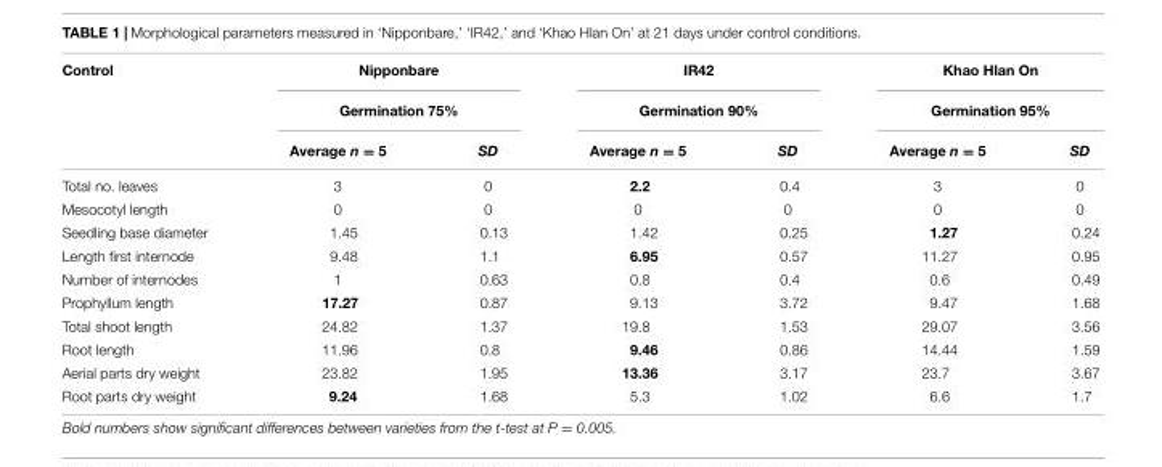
<table><thead><tr><td rowspan="3">Control</td><td rowspan="2" colspan="2">Nipponbare Germination 75%</td><td rowspan="2" colspan="2">IR42 Germination 90%</td><td rowspan="2" colspan="2">Khao Hlan On Germination 95%</td></tr><tr></tr><tr><td>Average n = 5</td><td>SD</td><td>Average n = 5</td><td>SD</td><td>Average n = 5</td><td>SD</td></tr></thead><tbody><tr><td>Total no. leaves</td><td>3</td><td>0</td><td>2.2</td><td>0.4</td><td>3</td><td>0</td></tr><tr><td>Mesocotyl length</td><td>0</td><td>0</td><td>0</td><td>0</td><td>0</td><td>0</td></tr><tr><td>Seedling base diameter</td><td>1.45</td><td>0.13</td><td>1.42</td><td>0.25</td><td>1.27</td><td>0.24</td></tr><tr><td>Length first internode</td><td>9.48</td><td>1.1</td><td>6.95</td><td>0.57</td><td>11.27</td><td>0.95</td></tr><tr><td>Number of internodes</td><td>1</td><td>0.63</td><td>0.8</td><td>0.4</td><td>0.6</td><td>0.49</td></tr><tr><td>Prophyllum length</td><td>17.27</td><td>0.87</td><td>9.13</td><td>3.72</td><td>9.47</td><td>1.68</td></tr><tr><td>Total shoot length</td><td>24.82</td><td>1.37</td><td>19.8</td><td>1.53</td><td>29.07</td><td>3.56</td></tr><tr><td>Root length</td><td>11.96</td><td>0.8</td><td>9.46</td><td>0.86</td><td>14.44</td><td>1.59</td></tr><tr><td>Aerial parts dry weight</td><td>23.82</td><td>1.95</td><td>13.36</td><td>3.17</td><td>23.7</td><td>3.67</td></tr><tr><td>Root parts dry weight</td><td>9.24</td><td>1.68</td><td>5.3</td><td>1.02</td><td>6.6</td><td>1.7</td></tr></tbody></table>